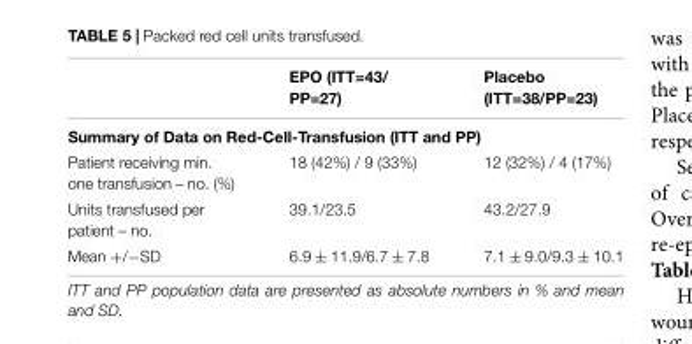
<table><thead><tr><td></td><td>EPO (ITT=43/ PP=27)</td><td>Placebo (ITT=38/PP=23)</td></tr></thead><tbody><tr><td colspan="3">Summary of Data on Red-Cell-Transfusion (ITT and PP)</td></tr><tr><td>Patient receiving min. one transfusion – no. (%)</td><td>18 (42%) / 9 (33%)</td><td>12 (32%) / 4 (17%)</td></tr><tr><td>Units transfused per patient – no.</td><td>39.1/23.5</td><td>43.2/27.9</td></tr><tr><td>Mean +/−SD</td><td>6.9 ± 11.9/6.7 ± 7.8</td><td>7.1 ± 9.0/9.3 ± 10.1</td></tr></tbody></table>